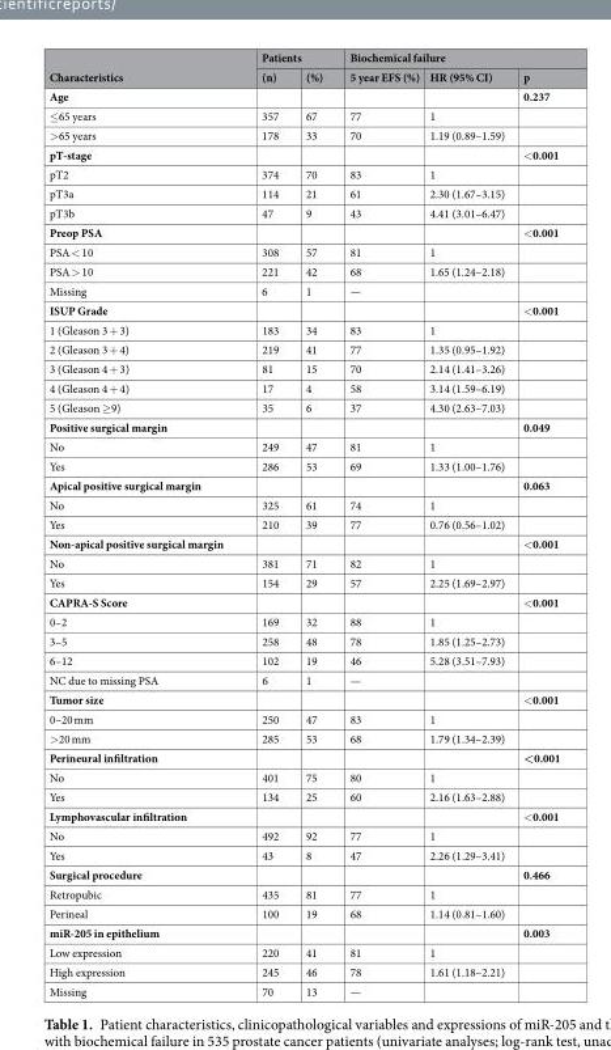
<table><thead><tr><td rowspan="2">Characteristics</td><td colspan="2">Patients</td><td colspan="3">Biochemical failure</td></tr><tr><td>(n)</td><td>(%)</td><td>5 year EFS (%)</td><td>HR (95% CI)</td><td>p</td></tr></thead><tbody><tr><td>Age</td><td></td><td></td><td></td><td></td><td>0.237</td></tr><tr><td>≤65 years</td><td>357</td><td>67</td><td>77</td><td>1</td><td></td></tr><tr><td>&gt;65 years</td><td>178</td><td>33</td><td>70</td><td>1.19 (0.89–1.59)</td><td></td></tr><tr><td>pT-stage</td><td></td><td></td><td></td><td></td><td>&lt;0.001</td></tr><tr><td>pT2</td><td>374</td><td>70</td><td>83</td><td>1</td><td></td></tr><tr><td>pT3a</td><td>114</td><td>21</td><td>61</td><td>2.30 (1.67–3.15)</td><td></td></tr><tr><td>pT3b</td><td>47</td><td>9</td><td>43</td><td>4.41 (3.01–6.47)</td><td></td></tr><tr><td>Preop PSA</td><td></td><td></td><td></td><td></td><td>&lt;0.001</td></tr><tr><td>PSA &lt; 10</td><td>308</td><td>57</td><td>81</td><td>1</td><td></td></tr><tr><td>PSA &gt; 10</td><td>221</td><td>42</td><td>68</td><td>1.65 (1.24–2.18)</td><td></td></tr><tr><td>Missing</td><td>6</td><td>1</td><td>—</td><td></td><td></td></tr><tr><td>ISUP Grade</td><td></td><td></td><td></td><td></td><td>&lt;0.001</td></tr><tr><td>1 (Gleason 3 + 3)</td><td>183</td><td>34</td><td>83</td><td>1</td><td></td></tr><tr><td>2 (Gleason 3 + 4)</td><td>219</td><td>41</td><td>77</td><td>1.35 (0.95–1.92)</td><td></td></tr><tr><td>3 (Gleason 4 + 3)</td><td>81</td><td>15</td><td>70</td><td>2.14 (1.41–3.26)</td><td></td></tr><tr><td>4 (Gleason 4 + 4)</td><td>17</td><td>4</td><td>58</td><td>3.14 (1.59–6.19)</td><td></td></tr><tr><td>5 (Gleason ≥9)</td><td>35</td><td>6</td><td>37</td><td>4.30 (2.63–7.03)</td><td></td></tr><tr><td>Positive surgical margin</td><td></td><td></td><td></td><td></td><td>0.049</td></tr><tr><td>No</td><td>249</td><td>47</td><td>81</td><td>1</td><td></td></tr><tr><td>Yes</td><td>286</td><td>53</td><td>69</td><td>1.33 (1.00–1.76)</td><td></td></tr><tr><td>Apical positive surgical margin</td><td></td><td></td><td></td><td></td><td>0.063</td></tr><tr><td>No</td><td>325</td><td>61</td><td>74</td><td>1</td><td></td></tr><tr><td>Yes</td><td>210</td><td>39</td><td>77</td><td>0.76 (0.56–1.02)</td><td></td></tr><tr><td>Non-apical positive surgical margin</td><td></td><td></td><td></td><td></td><td>&lt;0.001</td></tr><tr><td>No</td><td>381</td><td>71</td><td>82</td><td>1</td><td></td></tr><tr><td>Yes</td><td>154</td><td>29</td><td>57</td><td>2.25 (1.69–2.97)</td><td></td></tr><tr><td>CAPRA-S Score</td><td></td><td></td><td></td><td></td><td>&lt;0.001</td></tr><tr><td>0–2</td><td>169</td><td>32</td><td>88</td><td>1</td><td></td></tr><tr><td>3–5</td><td>258</td><td>48</td><td>78</td><td>1.85 (1.25–2.73)</td><td></td></tr><tr><td>6–12</td><td>102</td><td>19</td><td>46</td><td>5.28 (3.51–7.93)</td><td></td></tr><tr><td>NC due to missing PSA</td><td>6</td><td>1</td><td>—</td><td></td><td></td></tr><tr><td>Tumor size</td><td></td><td></td><td></td><td></td><td>&lt;0.001</td></tr><tr><td>0–20 mm</td><td>250</td><td>47</td><td>83</td><td>1</td><td></td></tr><tr><td>&gt;20 mm</td><td>285</td><td>53</td><td>68</td><td>1.79 (1.34–2.39)</td><td></td></tr><tr><td>Perineural infiltration</td><td></td><td></td><td></td><td></td><td>&lt;0.001</td></tr><tr><td>No</td><td>401</td><td>75</td><td>80</td><td>1</td><td></td></tr><tr><td>Yes</td><td>134</td><td>25</td><td>60</td><td>2.16 (1.63–2.88)</td><td></td></tr><tr><td>Lymphovascular infiltration</td><td></td><td></td><td></td><td></td><td>&lt;0.001</td></tr><tr><td>No</td><td>492</td><td>92</td><td>77</td><td>1</td><td></td></tr><tr><td>Yes</td><td>43</td><td>8</td><td>47</td><td>2.26 (1.29–3.41)</td><td></td></tr><tr><td>Surgical procedure</td><td></td><td></td><td></td><td></td><td>0.466</td></tr><tr><td>Retropubic</td><td>435</td><td>81</td><td>77</td><td>1</td><td></td></tr><tr><td>Perineal</td><td>100</td><td>19</td><td>68</td><td>1.14 (0.81–1.60)</td><td></td></tr><tr><td>miR-205 in epithelium</td><td></td><td></td><td></td><td></td><td>0.003</td></tr><tr><td>Low expression</td><td>220</td><td>41</td><td>81</td><td>1</td><td></td></tr><tr><td>High expression</td><td>245</td><td>46</td><td>78</td><td>1.61 (1.18–2.21)</td><td></td></tr><tr><td>Missing</td><td>70</td><td>13</td><td>—</td><td></td><td></td></tr></tbody></table>